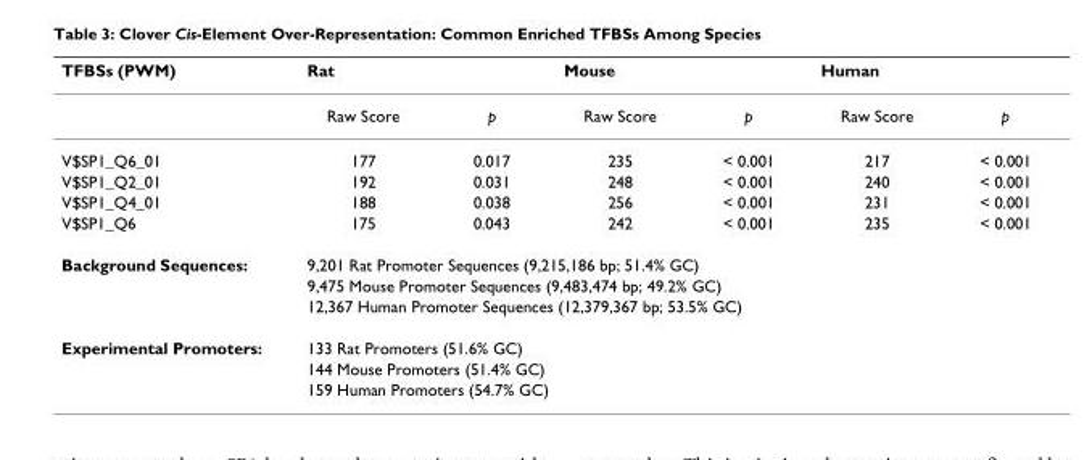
<table><thead><tr><td rowspan="2">TFBSs (PWM)</td><td colspan="2">Rat</td><td colspan="2">Mouse</td><td colspan="2">Human</td></tr><tr><td>Raw Score</td><td>p</td><td>Raw Score</td><td>p</td><td>Raw Score</td><td>p</td></tr></thead><tbody><tr><td>V$SP1_Q6_01</td><td>177</td><td>0.017</td><td>235</td><td>&lt; 0.001</td><td>217</td><td>&lt; 0.001</td></tr><tr><td>V$SP1_Q2_01</td><td>192</td><td>0.031</td><td>248</td><td>&lt; 0.001</td><td>240</td><td>&lt; 0.001</td></tr><tr><td>V$SP1_Q4_01</td><td>188</td><td>0.038</td><td>256</td><td>&lt; 0.001</td><td>231</td><td>&lt; 0.001</td></tr><tr><td>V$SP1_Q6</td><td>175</td><td>0.043</td><td>242</td><td>&lt; 0.001</td><td>235</td><td>&lt; 0.001</td></tr><tr><td rowspan="3">Background Sequences:</td><td colspan="6">9,201 Rat Promoter Sequences (9,215,186 bp; 51.4% GC)</td></tr><tr><td colspan="6">9,475 Mouse Promoter Sequences (9,483,474 bp; 49.2% GC)</td></tr><tr><td colspan="6">12,367 Human Promoter Sequences (12,379,367 bp; 53.5% GC)</td></tr><tr><td rowspan="3">Experimental Promoters:</td><td colspan="6">133 Rat Promoters (51.6% GC)</td></tr><tr><td colspan="6">144 Mouse Promoters (51.4% GC)</td></tr><tr><td colspan="6">159 Human Promoters (54.7% GC)</td></tr></tbody></table>